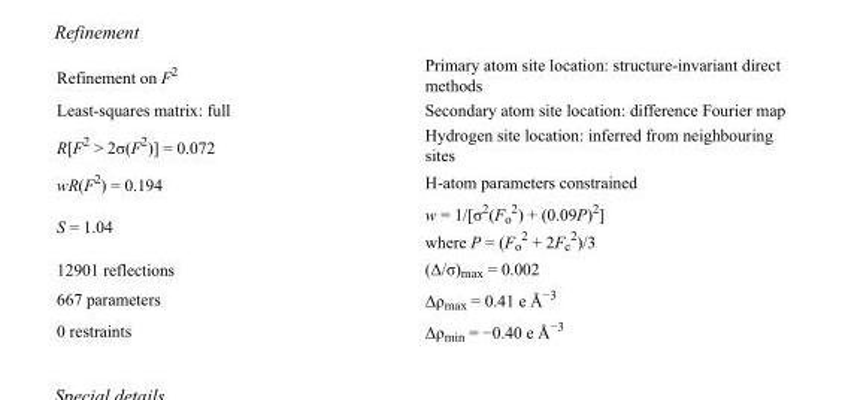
<table><tbody><tr><td>Refinement on F<sup>2</sup></td><td>Primary atom site location: structure-invariant direct methods</td></tr><tr><td>Least-squares matrix: full</td><td>Secondary atom site location: difference Fourier map</td></tr><tr><td>R[F<sup>2</sup> &gt; 2σ(F<sup>2</sup>)] = 0.072</td><td>Hydrogen site location: inferred from neighbouring sites</td></tr><tr><td>wR(F<sup>2</sup>) = 0.194</td><td>H-atom parameters constrained</td></tr><tr><td>S = 1.04</td><td>w = 1/[σ<sup>2</sup>(F<sub>o</sub> <sup>2</sup>) + (0.09P)<sup>2</sup>] where P = (F<sub>o</sub> <sup>2</sup> + 2F<sub>c</sub> <sup>2</sup>)/3</td></tr><tr><td>12901 reflections</td><td>(Δ/σ)<sub>max</sub> = 0.002</td></tr><tr><td>667 parameters</td><td>Δρ<sub>max</sub> = 0.41 e Å<sup>−3</sup></td></tr><tr><td>0 restraints</td><td>Δρ<sub>min</sub> = −0.40 e Å<sup>−3</sup></td></tr></tbody></table>